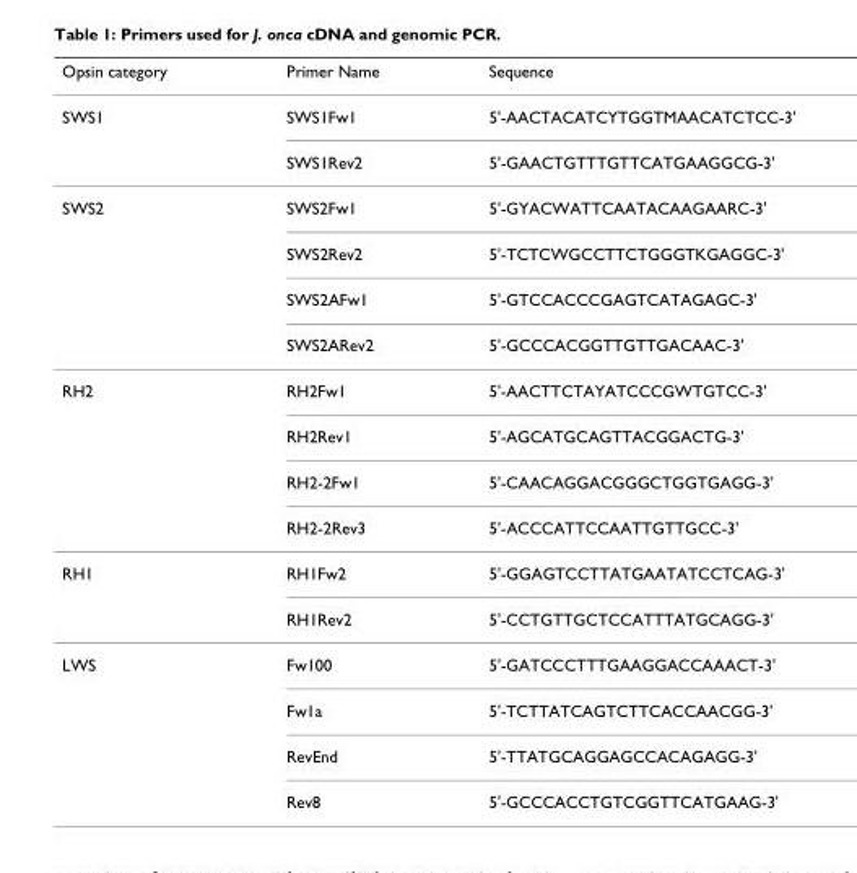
<table><thead><tr><td>Opsin category</td><td>Primer Name</td><td>Sequence</td></tr></thead><tbody><tr><td rowspan="2">SWS1</td><td>SWS1Fw1</td><td>5&#x27;-AACTACATCYTGGTMAACATCTCC-3&#x27;</td></tr><tr><td>SWS1Rev2</td><td>5&#x27;-GAACTGTTTGTTCATGAAGGCG-3&#x27;</td></tr><tr><td rowspan="4">SWS2</td><td>SWS2Fw1</td><td>5&#x27;-GYACWATTCAATACAAGAARC-3&#x27;</td></tr><tr><td>SWS2Rev2</td><td>5&#x27;-TCTCWGCCTTCTGGGTKGAGGC-3&#x27;</td></tr><tr><td>SWS2AFw1</td><td>5&#x27;-GTCCACCCGAGTCATAGAGC-3&#x27;</td></tr><tr><td>SWS2ARev2</td><td>5&#x27;-GCCCACGGTTGTTGACAAC-3&#x27;</td></tr><tr><td rowspan="4">RH2</td><td>RH2Fw1</td><td>5&#x27;-AACTTCTAYATCCCGWTGTCC-3&#x27;</td></tr><tr><td>RH2Rev1</td><td>5&#x27;-AGCATGCAGTTACGGACTG-3&#x27;</td></tr><tr><td>RH2-2Fw1</td><td>5&#x27;-CAACAGGACGGGCTGGTGAGG-3&#x27;</td></tr><tr><td>RH2-2Rev3</td><td>5&#x27;-ACCCATTCCAATTGTTGCC-3&#x27;</td></tr><tr><td rowspan="2">RH1</td><td>RH1Fw2</td><td>5&#x27;-GGAGTCCTTATGAATATCCTCAG-3&#x27;</td></tr><tr><td>RH1Rev2</td><td>5&#x27;-CCTGTTGCTCCATTTATGCAGG-3&#x27;</td></tr><tr><td rowspan="4">LWS</td><td>Fw100</td><td>5&#x27;-GATCCCTTTGAAGGACCAAACT-3&#x27;</td></tr><tr><td>Fw1a</td><td>5&#x27;-TCTTATCAGTCTTCACCAACGG-3&#x27;</td></tr><tr><td>RevEnd</td><td>5&#x27;-TTATGCAGGAGCCACAGAGG-3&#x27;</td></tr><tr><td>Rev8</td><td>5&#x27;-GCCCACCTGTCGGTTCATGAAG-3&#x27;</td></tr></tbody></table>